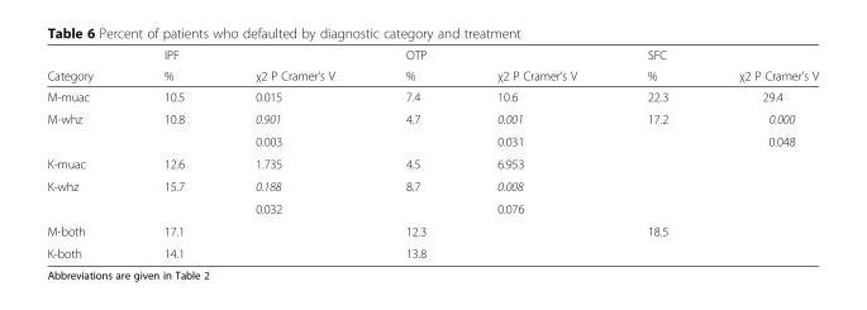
<table><thead><tr><td rowspan="2">Category</td><td rowspan="2">IPF %</td><td rowspan="2">χ2 P Cramer’s V</td><td rowspan="2">OTP %</td><td rowspan="2">χ2 P Cramer’s V</td><td rowspan="2">SFC %</td><td rowspan="2">χ2 P Cramer’s V</td></tr><tr></tr></thead><tbody><tr><td>M-muac</td><td>10.5</td><td>0.015</td><td>7.4</td><td>10.6</td><td>22.3</td><td>29.4</td></tr><tr><td rowspan="2">M-whz</td><td>10.8</td><td>0.901</td><td>4.7</td><td>0.001</td><td>17.2</td><td>0.000</td></tr><tr><td></td><td>0.003</td><td></td><td>0.031</td><td></td><td>0.048</td></tr><tr><td>K-muac</td><td>12.6</td><td>1.735</td><td>4.5</td><td>6.953</td><td></td><td></td></tr><tr><td rowspan="2">K-whz</td><td>15.7</td><td>0.188</td><td>8.7</td><td>0.008</td><td></td><td></td></tr><tr><td></td><td>0.032</td><td></td><td>0.076</td><td></td><td></td></tr><tr><td>M-both</td><td>17.1</td><td></td><td>12.3</td><td></td><td>18.5</td><td></td></tr><tr><td>K-both</td><td>14.1</td><td></td><td>13.8</td><td></td><td></td><td></td></tr></tbody></table>